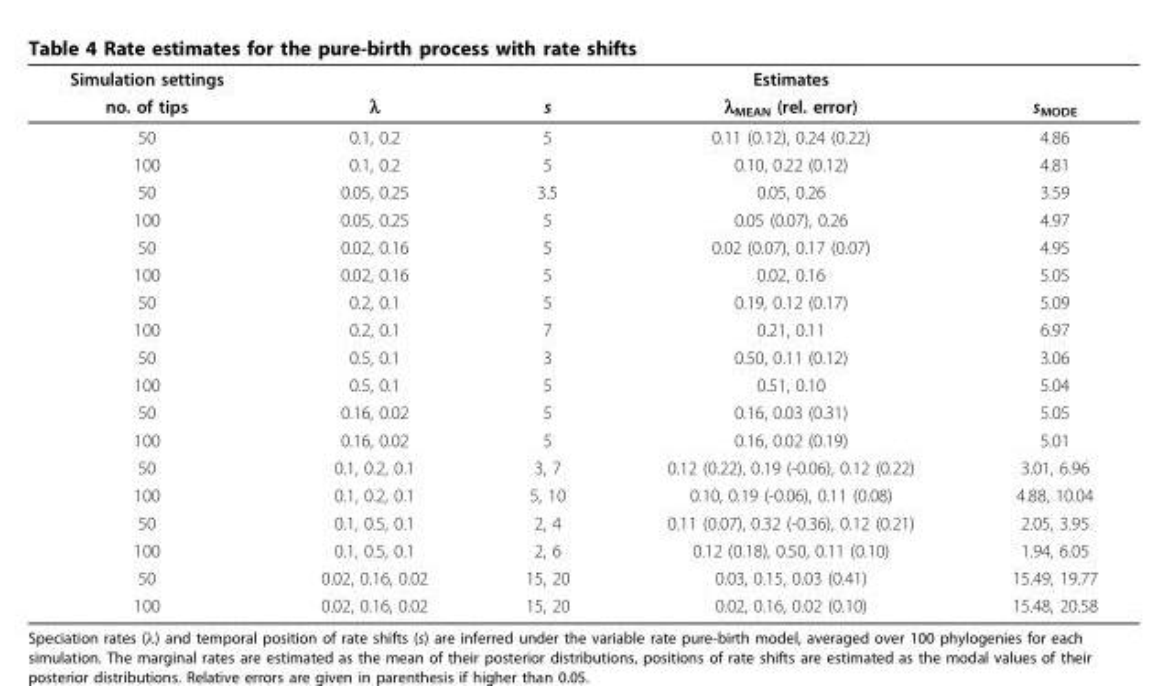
<table><thead><tr><td rowspan="2">Simulation settings no. of tips</td><td rowspan="2">λ</td><td rowspan="2">s</td><td rowspan="2">Estimates λ<sub>MEAN</sub> (rel. error)</td><td rowspan="2">s<sub>MODE</sub></td></tr><tr></tr></thead><tbody><tr><td>50</td><td>0.1, 0.2</td><td>5</td><td>0.11 (0.12), 0.24 (0.22)</td><td>4.86</td></tr><tr><td>100</td><td>0.1, 0.2</td><td>5</td><td>0.10, 0.22 (0.12)</td><td>4.81</td></tr><tr><td>50</td><td>0.05, 0.25</td><td>3.5</td><td>0.05, 0.26</td><td>3.59</td></tr><tr><td>100</td><td>0.05, 0.25</td><td>5</td><td>0.05 (0.07), 0.26</td><td>4.97</td></tr><tr><td>50</td><td>0.02, 0.16</td><td>5</td><td>0.02 (0.07), 0.17 (0.07)</td><td>4.95</td></tr><tr><td>100</td><td>0.02, 0.16</td><td>5</td><td>0.02, 0.16</td><td>5.05</td></tr><tr><td>50</td><td>0.2, 0.1</td><td>5</td><td>0.19, 0.12 (0.17)</td><td>5.09</td></tr><tr><td>100</td><td>0.2, 0.1</td><td>7</td><td>0.21, 0.11</td><td>6.97</td></tr><tr><td>50</td><td>0.5, 0.1</td><td>3</td><td>0.50, 0.11 (0.12)</td><td>3.06</td></tr><tr><td>100</td><td>0.5, 0.1</td><td>5</td><td>0.51, 0.10</td><td>5.04</td></tr><tr><td>50</td><td>0.16, 0.02</td><td>5</td><td>0.16, 0.03 (0.31)</td><td>5.05</td></tr><tr><td>100</td><td>0.16, 0.02</td><td>5</td><td>0.16, 0.02 (0.19)</td><td>5.01</td></tr><tr><td>50</td><td>0.1, 0.2, 0.1</td><td>3, 7</td><td>0.12 (0.22), 0.19 (-0.06), 0.12 (0.22)</td><td>3.01, 6.96</td></tr><tr><td>100</td><td>0.1, 0.2, 0.1</td><td>5, 10</td><td>0.10, 0.19 (-0.06), 0.11 (0.08)</td><td>4.88, 10.04</td></tr><tr><td>50</td><td>0.1, 0.5, 0.1</td><td>2, 4</td><td>0.11 (0.07), 0.32 (-0.36), 0.12 (0.21)</td><td>2.05, 3.95</td></tr><tr><td>100</td><td>0.1, 0.5, 0.1</td><td>2, 6</td><td>0.12 (0.18), 0.50, 0.11 (0.10)</td><td>1.94, 6.05</td></tr><tr><td>50</td><td>0.02, 0.16, 0.02</td><td>15, 20</td><td>0.03, 0.15, 0.03 (0.41)</td><td>15.49, 19.77</td></tr><tr><td>100</td><td>0.02, 0.16, 0.02</td><td>15, 20</td><td>0.02, 0.16, 0.02 (0.10)</td><td>15.48, 20.58</td></tr></tbody></table>